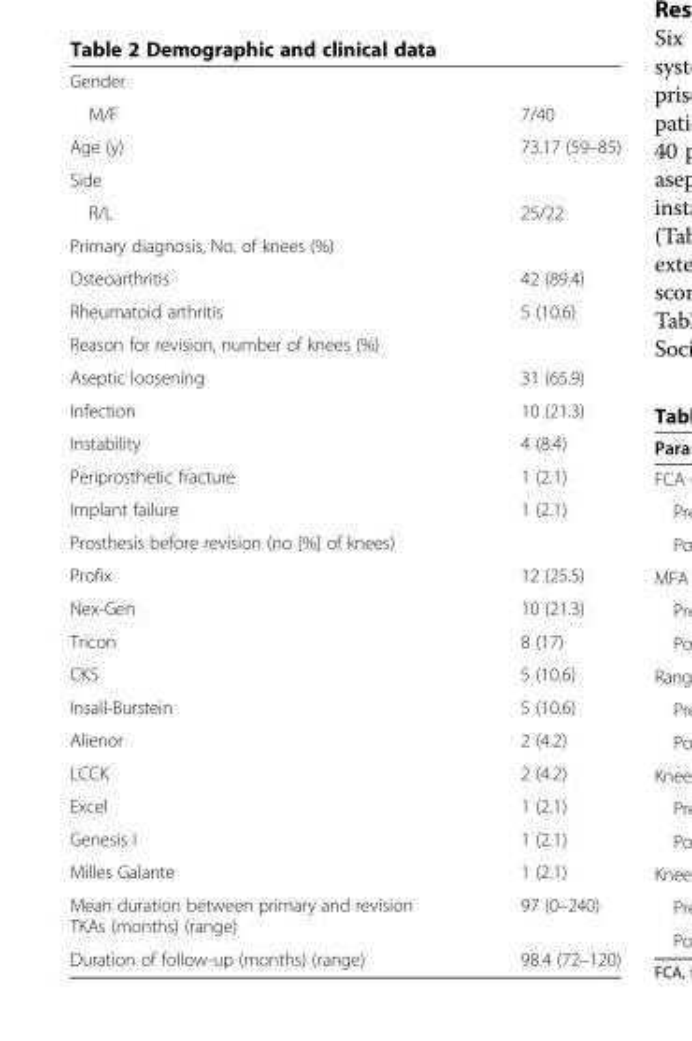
<table><tbody><tr><td colspan="2">Gender</td></tr><tr><td>M/F</td><td>7/40</td></tr><tr><td>Age (y)</td><td>73.17 (59–85)</td></tr><tr><td colspan="2">Side</td></tr><tr><td>R/L</td><td>25/22</td></tr><tr><td colspan="2">Primary diagnosis, No. of knees (%)</td></tr><tr><td>Osteoarthritis</td><td>42 (89.4)</td></tr><tr><td>Rheumatoid arthritis</td><td>5 (10.6)</td></tr><tr><td colspan="2">Reason for revision, number of knees (%)</td></tr><tr><td>Aseptic loosening</td><td>31 (65.9)</td></tr><tr><td>Infection</td><td>10 (21.3)</td></tr><tr><td>Instability</td><td>4 (8.4)</td></tr><tr><td>Periprosthetic fracture</td><td>1 (2.1)</td></tr><tr><td>Implant failure</td><td>1 (2.1)</td></tr><tr><td colspan="2">Prosthesis before revision (no [%] of knees)</td></tr><tr><td>Profix</td><td>12 (25.5)</td></tr><tr><td>Nex-Gen</td><td>10 (21.3)</td></tr><tr><td>Tricon</td><td>8 (17)</td></tr><tr><td>CKS</td><td>5 (10.6)</td></tr><tr><td>Insall-Burstein</td><td>5 (10.6)</td></tr><tr><td>Alienor</td><td>2 (4.2)</td></tr><tr><td>LCCK</td><td>2 (4.2)</td></tr><tr><td>Excel</td><td>1 (2.1)</td></tr><tr><td>Genesis I</td><td>1 (2.1)</td></tr><tr><td>Milles Galante</td><td>1 (2.1)</td></tr><tr><td>Mean duration between primary and revision TKAs (months) (range)</td><td>97 (0–240)</td></tr><tr><td>Duration of follow-up (months) (range)</td><td>98.4 (72–120)</td></tr></tbody></table>